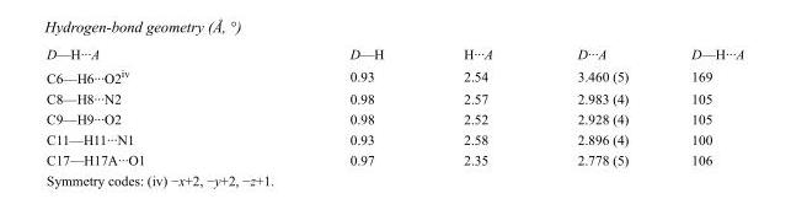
<table><tbody><tr><td>D—H···A</td><td>D—H</td><td>H···A</td><td>D···A</td><td>D—H···A</td></tr><tr><td>C6—H6···O2<sup>iv</sup></td><td>0.93</td><td>2.54</td><td>3.460 (5)</td><td>169</td></tr><tr><td>C8—H8···N2</td><td>0.98</td><td>2.57</td><td>2.983 (4)</td><td>105</td></tr><tr><td>C9—H9···O2</td><td>0.98</td><td>2.52</td><td>2.928 (4)</td><td>105</td></tr><tr><td>C11—H11···N1</td><td>0.93</td><td>2.58</td><td>2.896 (4)</td><td>100</td></tr><tr><td>C17—H17A···O1</td><td>0.97</td><td>2.35</td><td>2.778 (5)</td><td>106</td></tr></tbody></table>